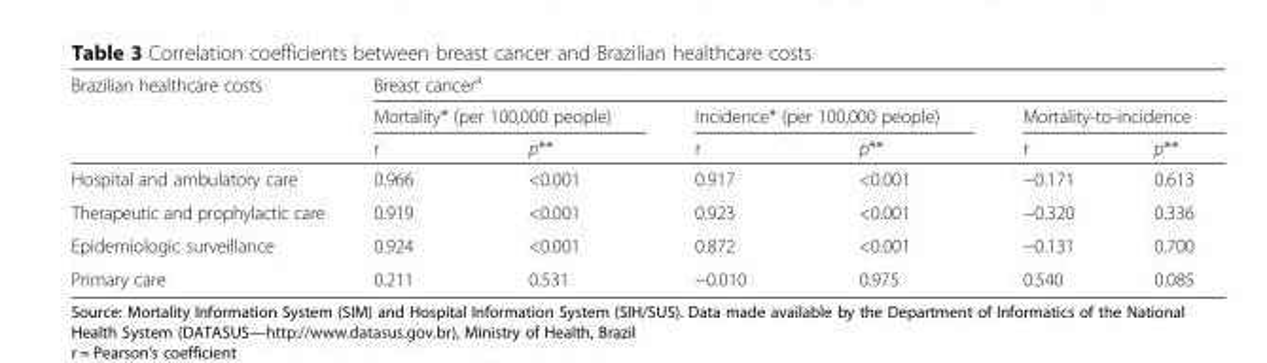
<table><thead><tr><td rowspan="3">Brazilian healthcare costs</td><td colspan="6">Breast cancer<sup>a</sup></td></tr><tr><td colspan="2">Mortality* (per 100,000 people)</td><td colspan="2">Incidence* (per 100,000 people)</td><td colspan="2">Mortality-to-incidence</td></tr><tr><td>r</td><td>p**</td><td>r</td><td>p**</td><td>r</td><td>p**</td></tr></thead><tbody><tr><td>Hospital and ambulatory care</td><td>0.966</td><td>&lt;0.001</td><td>0.917</td><td>&lt;0.001</td><td>−0.171</td><td>0.613</td></tr><tr><td>Therapeutic and prophylactic care</td><td>0.919</td><td>&lt;0.001</td><td>0.923</td><td>&lt;0.001</td><td>−0.320</td><td>0.336</td></tr><tr><td>Epidemiologic surveillance</td><td>0.924</td><td>&lt;0.001</td><td>0.872</td><td>&lt;0.001</td><td>−0.131</td><td>0.700</td></tr><tr><td>Primary care</td><td>0.211</td><td>0.531</td><td>−0.010</td><td>0.975</td><td>0.540</td><td>0.085</td></tr></tbody></table>